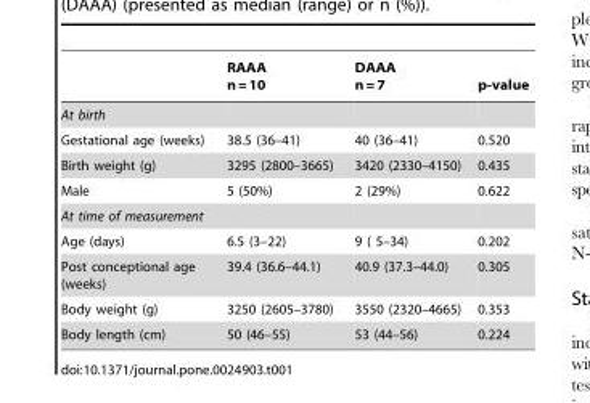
<table><thead><tr><td></td><td>RAAA n = 10</td><td>DAAA n = 7</td><td>p-value</td></tr></thead><tbody><tr><td colspan="4">At birth</td></tr><tr><td>Gestational age (weeks)</td><td>38.5 (36–41)</td><td>40 (36–41)</td><td>0.520</td></tr><tr><td>Birth weight (g)</td><td>3295 (2800–3665)</td><td>3420 (2330–4150)</td><td>0.435</td></tr><tr><td>Male</td><td>5 (50%)</td><td>2 (29%)</td><td>0.622</td></tr><tr><td colspan="4">At time of measurement</td></tr><tr><td>Age (days)</td><td>6.5 (3–22)</td><td>9 ( 5–34)</td><td>0.202</td></tr><tr><td>Post conceptional age (weeks)</td><td>39.4 (36.6–44.1)</td><td>40.9 (37.3–44.0)</td><td>0.305</td></tr><tr><td>Body weight (g)</td><td>3250 (2605–3780)</td><td>3550 (2320–4665)</td><td>0.353</td></tr><tr><td>Body length (cm)</td><td>50 (46–55)</td><td>53 (44–56)</td><td>0.224</td></tr></tbody></table>